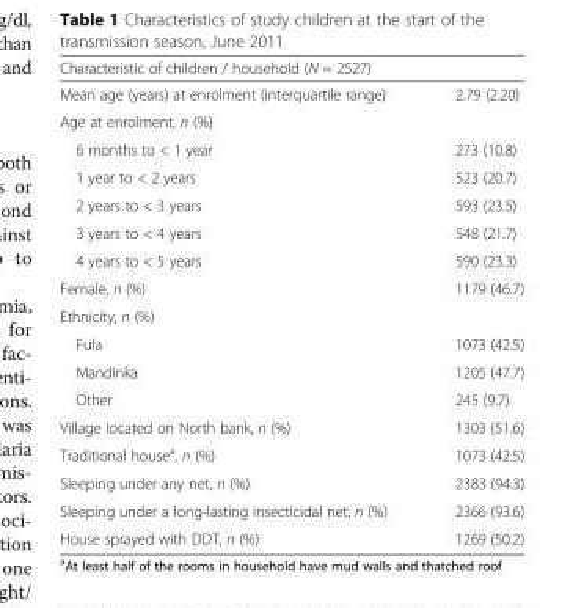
<table><thead><tr><td colspan="2">Characteristic of children / household (N = 2527)</td></tr><tr><td>Mean age (years) at enrolment (interquartile range)</td><td>2.79 (2.20)</td></tr></thead><tbody><tr><td colspan="2">Age at enrolment, n (%)</td></tr><tr><td>6 months to &lt; 1 year</td><td>273 (10.8)</td></tr><tr><td>1 year to &lt; 2 years</td><td>523 (20.7)</td></tr><tr><td>2 years to &lt; 3 years</td><td>593 (23.5)</td></tr><tr><td>3 years to &lt; 4 years</td><td>548 (21.7)</td></tr><tr><td>4 years to &lt; 5 years</td><td>590 (23.3)</td></tr><tr><td>Female, n (%)</td><td>1179 (46.7)</td></tr><tr><td colspan="2">Ethnicity, n (%)</td></tr><tr><td>Fula</td><td>1073 (42.5)</td></tr><tr><td>Mandinka</td><td>1205 (47.7)</td></tr><tr><td>Other</td><td>245 (9.7)</td></tr><tr><td>Village located on North bank, n (%)</td><td>1303 (51.6)</td></tr><tr><td>Traditional house<sup>a</sup>, n (%)</td><td>1073 (42.5)</td></tr><tr><td>Sleeping under any net, n (%)</td><td>2383 (94.3)</td></tr><tr><td>Sleeping under a long-lasting insecticidal net, n (%)</td><td>2366 (93.6)</td></tr><tr><td>House sprayed with DDT, n (%)</td><td>1269 (50.2)</td></tr></tbody></table>